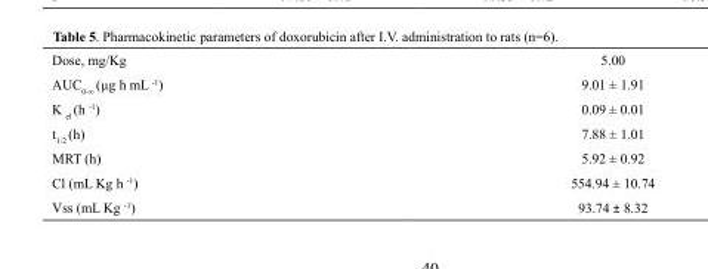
<table><tbody><tr><td>Dose, mg/Kg</td><td>5.00</td></tr><tr><td>AUC<sub>0-∞</sub> (µg h mL <sup>-1</sup>)</td><td>9.01 ± 1.91</td></tr><tr><td>K <sub>el</sub> (h <sup>-1</sup>)</td><td>0.09 ± 0.01</td></tr><tr><td>t<sub>1/2</sub> (h)</td><td>7.88 ± 1.01</td></tr><tr><td>MRT (h)</td><td>5.92 ± 0.92</td></tr><tr><td>Cl (mL Kg h <sup>-1</sup>)</td><td>554.94 ± 10.74</td></tr><tr><td>Vss (mL Kg <sup>-1</sup>)</td><td>93.74 ± 8.32</td></tr></tbody></table>